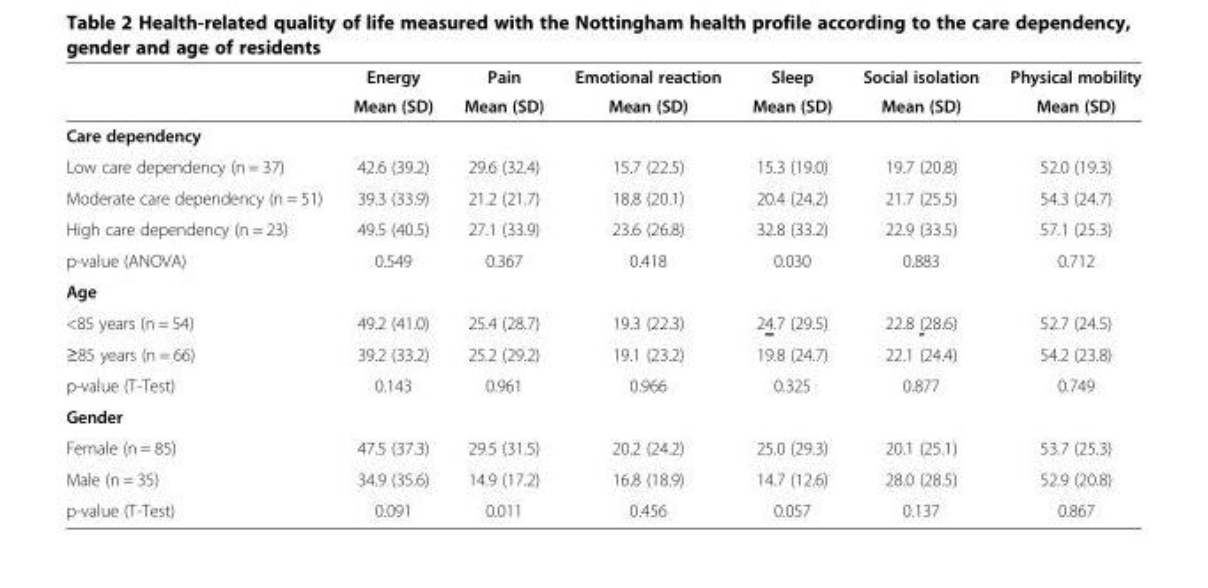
<table><thead><tr><td rowspan="2"></td><td rowspan="2">Energy Mean (SD)</td><td rowspan="2">Pain Mean (SD)</td><td rowspan="2">Emotional reaction Mean (SD)</td><td rowspan="2">Sleep Mean (SD)</td><td rowspan="2">Social isolation Mean (SD)</td><td rowspan="2">Physical mobility Mean (SD)</td></tr><tr></tr></thead><tbody><tr><td colspan="7">Care dependency</td></tr><tr><td>Low care dependency (n = 37)</td><td>42.6 (39.2)</td><td>29.6 (32.4)</td><td>15.7 (22.5)</td><td>15.3 (19.0)</td><td>19.7 (20.8)</td><td>52.0 (19.3)</td></tr><tr><td>Moderate care dependency (n = 51)</td><td>39.3 (33.9)</td><td>21.2 (21.7)</td><td>18.8 (20.1)</td><td>20.4 (24.2)</td><td>21.7 (25.5)</td><td>54.3 (24.7)</td></tr><tr><td>High care dependency (n = 23)</td><td>49.5 (40.5)</td><td>27.1 (33.9)</td><td>23.6 (26.8)</td><td>32.8 (33.2)</td><td>22.9 (33.5)</td><td>57.1 (25.3)</td></tr><tr><td>p-value (ANOVA)</td><td>0.549</td><td>0.367</td><td>0.418</td><td>0.030</td><td>0.883</td><td>0.712</td></tr><tr><td colspan="7">Age</td></tr><tr><td>&lt;85 years (n = 54)</td><td>49.2 (41.0)</td><td>25.4 (28.7)</td><td>19.3 (22.3)</td><td>24.7 (29.5)</td><td>22.8 (28.6)</td><td>52.7 (24.5)</td></tr><tr><td>≥85 years (n = 66)</td><td>39.2 (33.2)</td><td>25.2 (29.2)</td><td>19.1 (23.2)</td><td>19.8 (24.7)</td><td>22.1 (24.4)</td><td>54.2 (23.8)</td></tr><tr><td>p-value (T-Test)</td><td>0.143</td><td>0.961</td><td>0.966</td><td>0.325</td><td>0.877</td><td>0.749</td></tr><tr><td colspan="7">Gender</td></tr><tr><td>Female (n = 85)</td><td>47.5 (37.3)</td><td>29.5 (31.5)</td><td>20.2 (24.2)</td><td>25.0 (29.3)</td><td>20.1 (25.1)</td><td>53.7 (25.3)</td></tr><tr><td>Male (n = 35)</td><td>34.9 (35.6)</td><td>14.9 (17.2)</td><td>16.8 (18.9)</td><td>14.7 (12.6)</td><td>28.0 (28.5)</td><td>52.9 (20.8)</td></tr><tr><td>p-value (T-Test)</td><td>0.091</td><td>0.011</td><td>0.456</td><td>0.057</td><td>0.137</td><td>0.867</td></tr></tbody></table>